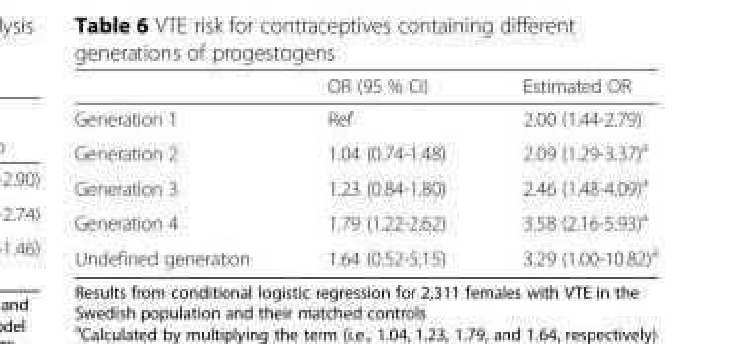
<table><thead><tr><td></td><td>OR (95 % CI)</td><td>Estimated OR</td></tr></thead><tbody><tr><td>Generation 1</td><td>Ref</td><td>2.00 (1.44-2.79)</td></tr><tr><td>Generation 2</td><td>1.04 (0.74-1.48)</td><td>2.09 (1.29-3.37)<sup>a</sup></td></tr><tr><td>Generation 3</td><td>1.23 (0.84-1.80)</td><td>2.46 (1.48-4.09)<sup>a</sup></td></tr><tr><td>Generation 4</td><td>1.79 (1.22-2.62)</td><td>3.58 (2.16-5.93)<sup>a</sup></td></tr><tr><td>Undefined generation</td><td>1.64 (0.52-5.15)</td><td>3.29 (1.00-10.82)<sup>a</sup></td></tr></tbody></table>